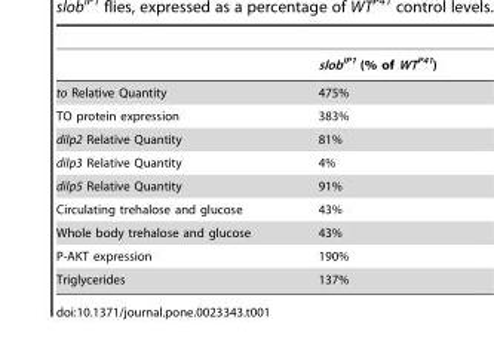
<table><thead><tr><td></td><td>slob<sup>IP1</sup> (% of WT<sup>P41</sup>)</td></tr></thead><tbody><tr><td>to Relative Quantity</td><td>475%</td></tr><tr><td>TO protein expression</td><td>383%</td></tr><tr><td>dilp2 Relative Quantity</td><td>81%</td></tr><tr><td>dilp3 Relative Quantity</td><td>4%</td></tr><tr><td>dilp5 Relative Quantity</td><td>91%</td></tr><tr><td>Circulating trehalose and glucose</td><td>43%</td></tr><tr><td>Whole body trehalose and glucose</td><td>43%</td></tr><tr><td>P-AKT expression</td><td>190%</td></tr><tr><td>Triglycerides</td><td>137%</td></tr></tbody></table>